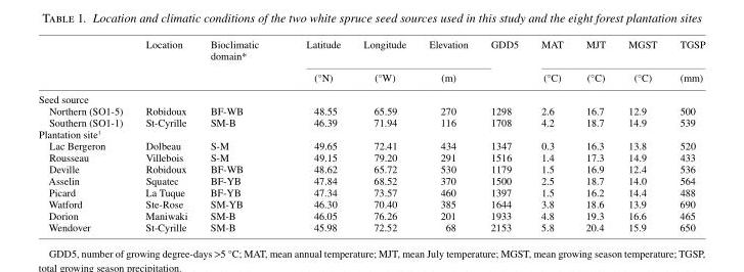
<table><thead><tr><td rowspan="2"></td><td rowspan="2">Location</td><td rowspan="2">Bioclimatic domain*</td><td rowspan="2">Latitude (°N)</td><td rowspan="2">Longitude (°W)</td><td rowspan="2">Elevation (m)</td><td rowspan="2">GDD5</td><td rowspan="2">MAT (°C)</td><td rowspan="2">MJT (°C)</td><td rowspan="2">MGST (°C)</td><td rowspan="2">TGSP (mm)</td></tr><tr></tr></thead><tbody><tr><td colspan="11">Seed source</td></tr><tr><td>Northern (SO1-5)</td><td>Robidoux</td><td>BF-WB</td><td>48.55</td><td>65.59</td><td>270</td><td>1298</td><td>2.6</td><td>16.7</td><td>12.9</td><td>500</td></tr><tr><td>Southern (SO1-1)</td><td>St-Cyrille</td><td>SM-B</td><td>46.39</td><td>71.94</td><td>116</td><td>1708</td><td>4.2</td><td>18.7</td><td>14.9</td><td>539</td></tr><tr><td colspan="11">Plantation site<sup>†</sup></td></tr><tr><td>Lac Bergeron</td><td>Dolbeau</td><td>S-M</td><td>49.65</td><td>72.41</td><td>434</td><td>1347</td><td>0.3</td><td>16.3</td><td>13.8</td><td>520</td></tr><tr><td>Rousseau</td><td>Villebois</td><td>S-M</td><td>49.15</td><td>79.20</td><td>291</td><td>1516</td><td>1.4</td><td>17.3</td><td>14.9</td><td>433</td></tr><tr><td>Deville</td><td>Robidoux</td><td>BF-WB</td><td>48.62</td><td>65.72</td><td>530</td><td>1179</td><td>1.5</td><td>16.9</td><td>12.4</td><td>536</td></tr><tr><td>Asselin</td><td>Squatec</td><td>BF-YB</td><td>47.84</td><td>68.52</td><td>370</td><td>1500</td><td>2.5</td><td>18.7</td><td>14.0</td><td>564</td></tr><tr><td>Picard</td><td>La Tuque</td><td>BF-YB</td><td>47.34</td><td>73.57</td><td>460</td><td>1397</td><td>1.5</td><td>16.2</td><td>14.4</td><td>488</td></tr><tr><td>Watford</td><td>Ste-Rose</td><td>SM-YB</td><td>46.30</td><td>70.40</td><td>385</td><td>1644</td><td>3.8</td><td>18.6</td><td>13.9</td><td>690</td></tr><tr><td>Dorion</td><td>Maniwaki</td><td>SM-B</td><td>46.05</td><td>76.26</td><td>201</td><td>1933</td><td>4.8</td><td>19.3</td><td>16.6</td><td>465</td></tr><tr><td>Wendover</td><td>St-Cyrille</td><td>SM-B</td><td>45.98</td><td>72.52</td><td>68</td><td>2153</td><td>5.8</td><td>20.4</td><td>15.9</td><td>650</td></tr></tbody></table>